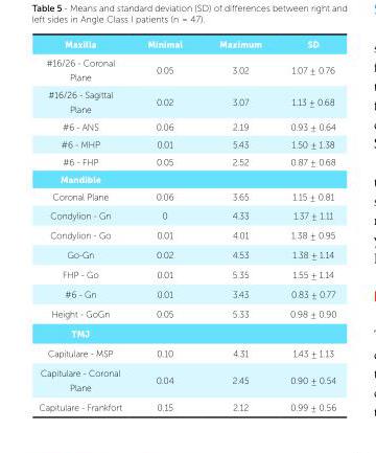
<table><thead><tr><td>Maxilla</td><td>Minimal</td><td>Maximum</td><td>SD</td></tr></thead><tbody><tr><td>#16/26 - Coronal Plane</td><td>0.05</td><td>3.02</td><td>1.07 ± 0.76</td></tr><tr><td>#16/26 - Sagittal Plane</td><td>0.02</td><td>3.07</td><td>1.13 ± 0.68</td></tr><tr><td>#6 - ANS</td><td>0.06</td><td>2.19</td><td>0.93 ± 0.64</td></tr><tr><td>#6 - MHP</td><td>0.01</td><td>5.43</td><td>1.50 ± 1.38</td></tr><tr><td>#6 - FHP</td><td>0.05</td><td>2.52</td><td>0.87 ± 0.68</td></tr><tr><td colspan="4">Mandible</td></tr><tr><td>Coronal Plane</td><td>0.06</td><td>3.65</td><td>1.15 ± 0.81</td></tr><tr><td>Condylion - Gn</td><td>0</td><td>4.33</td><td>1.37 ± 1.11</td></tr><tr><td>Condylion - Go</td><td>0.01</td><td>4.01</td><td>1.38 ± 0.95</td></tr><tr><td>Go-Gn</td><td>0.02</td><td>4.53</td><td>1.38 ± 1.14</td></tr><tr><td>FHP - Go</td><td>0.01</td><td>5.35</td><td>1.55 ± 1.14</td></tr><tr><td>#6 - Gn</td><td>0.01</td><td>3.43</td><td>0.83 ± 0.77</td></tr><tr><td>Height - GoGn</td><td>0.05</td><td>5.33</td><td>0.98 ± 0.90</td></tr><tr><td colspan="4">TMJ</td></tr><tr><td>Capitulare - MSP</td><td>0.10</td><td>4.31</td><td>1.43 ± 1.13</td></tr><tr><td>Capitulare - Coronal Plane</td><td>0.04</td><td>2.45</td><td>0.90 ± 0.54</td></tr><tr><td>Capitulare - Frankfort</td><td>0.15</td><td>2.12</td><td>0.99 ± 0.56</td></tr></tbody></table>